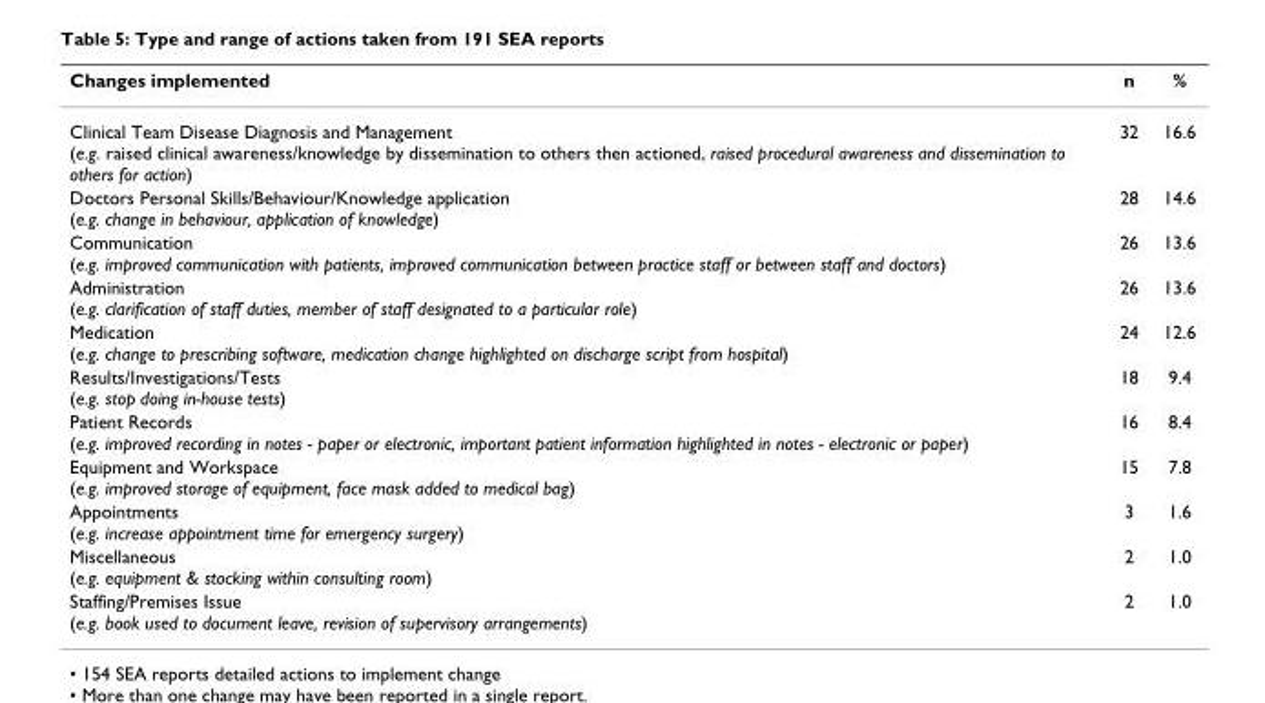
<table><thead><tr><td>Changes implemented</td><td>n</td><td>%</td></tr></thead><tbody><tr><td>Clinical Team Disease Diagnosis and Management (e.g. raised clinical awareness/knowledge by dissemination to others then actioned, raised procedural awareness and dissemination to others for action)</td><td>32</td><td>16.6</td></tr><tr><td>Doctors Personal Skills/Behaviour/Knowledge application (e.g. change in behaviour, application of knowledge)</td><td>28</td><td>14.6</td></tr><tr><td>Communication (e.g. improved communication with patients, improved communication between practice staff or between staff and doctors)</td><td>26</td><td>13.6</td></tr><tr><td>Administration (e.g. clarification of staff duties, member of staff designated to a particular role)</td><td>26</td><td>13.6</td></tr><tr><td>Medication (e.g. change to prescribing software, medication change highlighted on discharge script from hospital)</td><td>24</td><td>12.6</td></tr><tr><td>Results/Investigations/Tests (e.g. stop doing in-house tests)</td><td>18</td><td>9.4</td></tr><tr><td>Patient Records (e.g. improved recording in notes - paper or electronic, important patient information highlighted in notes - electronic or paper)</td><td>16</td><td>8.4</td></tr><tr><td>Equipment and Workspace (e.g. improved storage of equipment, face mask added to medical bag)</td><td>15</td><td>7.8</td></tr><tr><td>Appointments (e.g. increase appointment time for emergency surgery)</td><td>3</td><td>1.6</td></tr><tr><td>Miscellaneous (e.g. equipment &amp; stocking within consulting room)</td><td>2</td><td>1.0</td></tr><tr><td>Staffing/Premises Issue (e.g. book used to document leave, revision of supervisory arrangements)</td><td>2</td><td>1.0</td></tr></tbody></table>